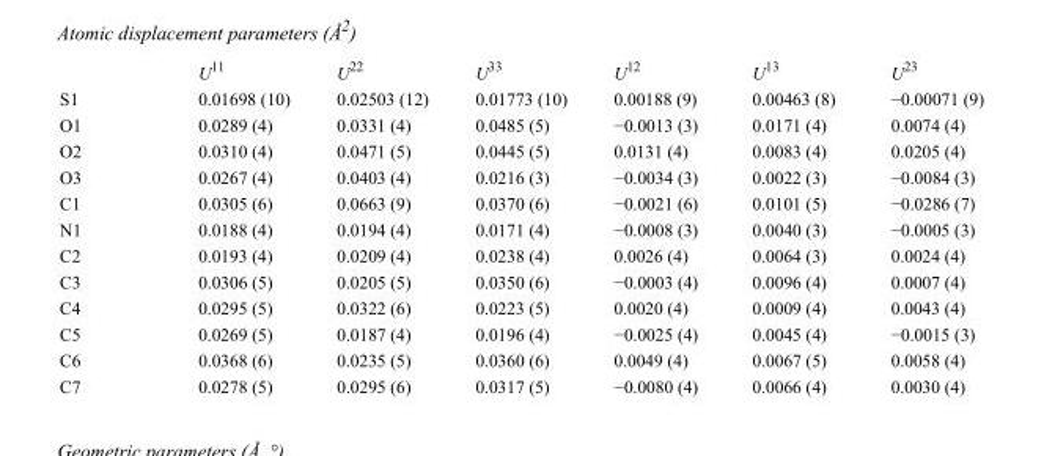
<table><thead><tr><td></td><td>U<sup>11</sup></td><td>U<sup>22</sup></td><td>U<sup>33</sup></td><td>U<sup>12</sup></td><td>U<sup>13</sup></td><td>U<sup>23</sup></td></tr></thead><tbody><tr><td>S1</td><td>0.01698 (10)</td><td>0.02503 (12)</td><td>0.01773 (10)</td><td>0.00188 (9)</td><td>0.00463 (8)</td><td>−0.00071 (9)</td></tr><tr><td>O1</td><td>0.0289 (4)</td><td>0.0331 (4)</td><td>0.0485 (5)</td><td>−0.0013 (3)</td><td>0.0171 (4)</td><td>0.0074 (4)</td></tr><tr><td>O2</td><td>0.0310 (4)</td><td>0.0471 (5)</td><td>0.0445 (5)</td><td>0.0131 (4)</td><td>0.0083 (4)</td><td>0.0205 (4)</td></tr><tr><td>O3</td><td>0.0267 (4)</td><td>0.0403 (4)</td><td>0.0216 (3)</td><td>−0.0034 (3)</td><td>0.0022 (3)</td><td>−0.0084 (3)</td></tr><tr><td>C1</td><td>0.0305 (6)</td><td>0.0663 (9)</td><td>0.0370 (6)</td><td>−0.0021 (6)</td><td>0.0101 (5)</td><td>−0.0286 (7)</td></tr><tr><td>N1</td><td>0.0188 (4)</td><td>0.0194 (4)</td><td>0.0171 (4)</td><td>−0.0008 (3)</td><td>0.0040 (3)</td><td>−0.0005 (3)</td></tr><tr><td>C2</td><td>0.0193 (4)</td><td>0.0209 (4)</td><td>0.0238 (4)</td><td>0.0026 (4)</td><td>0.0064 (3)</td><td>0.0024 (4)</td></tr><tr><td>C3</td><td>0.0306 (5)</td><td>0.0205 (5)</td><td>0.0350 (6)</td><td>−0.0003 (4)</td><td>0.0096 (4)</td><td>0.0007 (4)</td></tr><tr><td>C4</td><td>0.0295 (5)</td><td>0.0322 (6)</td><td>0.0223 (5)</td><td>0.0020 (4)</td><td>0.0009 (4)</td><td>0.0043 (4)</td></tr><tr><td>C5</td><td>0.0269 (5)</td><td>0.0187 (4)</td><td>0.0196 (4)</td><td>−0.0025 (4)</td><td>0.0045 (4)</td><td>−0.0015 (3)</td></tr><tr><td>C6</td><td>0.0368 (6)</td><td>0.0235 (5)</td><td>0.0360 (6)</td><td>0.0049 (4)</td><td>0.0067 (5)</td><td>0.0058 (4)</td></tr><tr><td>C7</td><td>0.0278 (5)</td><td>0.0295 (6)</td><td>0.0317 (5)</td><td>−0.0080 (4)</td><td>0.0066 (4)</td><td>0.0030 (4)</td></tr></tbody></table>